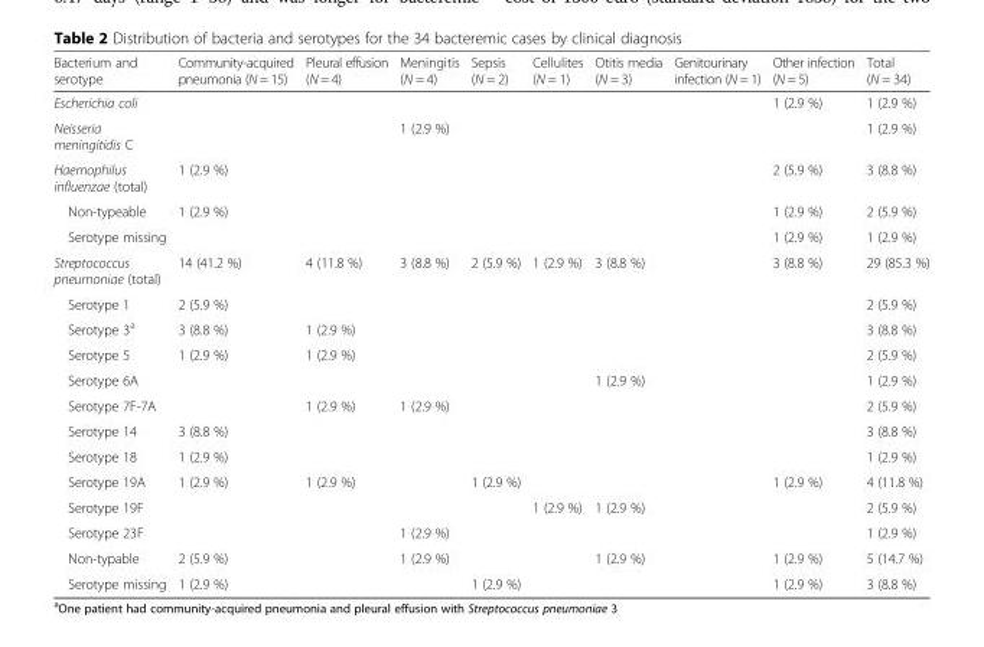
<table><thead><tr><td>Bacterium and serotype</td><td>Community-acquired pneumonia (N = 15)</td><td>Pleural effusion (N = 4)</td><td>Meningitis (N = 4)</td><td>Sepsis (N = 2)</td><td>Cellulites (N = 1)</td><td>Otitis media (N = 3)</td><td>Genitourinary infection (N = 1)</td><td>Other infection (N = 5)</td><td>Total (N = 34)</td></tr></thead><tbody><tr><td>Escherichia coli</td><td></td><td></td><td></td><td></td><td></td><td></td><td></td><td>1 (2.9 %)</td><td>1 (2.9 %)</td></tr><tr><td>Neisseria meningitidis C</td><td></td><td></td><td>1 (2.9 %)</td><td></td><td></td><td></td><td></td><td></td><td>1 (2.9 %)</td></tr><tr><td>Haemophilus influenzae (total)</td><td>1 (2.9 %)</td><td></td><td></td><td></td><td></td><td></td><td></td><td>2 (5.9 %)</td><td>3 (8.8 %)</td></tr><tr><td>Non-typeable</td><td>1 (2.9 %)</td><td></td><td></td><td></td><td></td><td></td><td></td><td>1 (2.9 %)</td><td>2 (5.9 %)</td></tr><tr><td>Serotype missing</td><td></td><td></td><td></td><td></td><td></td><td></td><td></td><td>1 (2.9 %)</td><td>1 (2.9 %)</td></tr><tr><td>Streptococcus pneumoniae (total)</td><td>14 (41.2 %)</td><td>4 (11.8 %)</td><td>3 (8.8 %)</td><td>2 (5.9 %)</td><td>1 (2.9 %)</td><td>3 (8.8 %)</td><td></td><td>3 (8.8 %)</td><td>29 (85.3 %)</td></tr><tr><td>Serotype 1</td><td>2 (5.9 %)</td><td></td><td></td><td></td><td></td><td></td><td></td><td></td><td>2 (5.9 %)</td></tr><tr><td>Serotype 3<sup>a</sup></td><td>3 (8.8 %)</td><td>1 (2.9 %)</td><td></td><td></td><td></td><td></td><td></td><td></td><td>3 (8.8 %)</td></tr><tr><td>Serotype 5</td><td>1 (2.9 %)</td><td>1 (2.9 %)</td><td></td><td></td><td></td><td></td><td></td><td></td><td>2 (5.9 %)</td></tr><tr><td>Serotype 6A</td><td></td><td></td><td></td><td></td><td></td><td>1 (2.9 %)</td><td></td><td></td><td>1 (2.9 %)</td></tr><tr><td>Serotype 7F-7A</td><td></td><td>1 (2.9 %)</td><td>1 (2.9 %)</td><td></td><td></td><td></td><td></td><td></td><td>2 (5.9 %)</td></tr><tr><td>Serotype 14</td><td>3 (8.8 %)</td><td></td><td></td><td></td><td></td><td></td><td></td><td></td><td>3 (8.8 %)</td></tr><tr><td>Serotype 18</td><td>1 (2.9 %)</td><td></td><td></td><td></td><td></td><td></td><td></td><td></td><td>1 (2.9 %)</td></tr><tr><td>Serotype 19A</td><td>1 (2.9 %)</td><td>1 (2.9 %)</td><td></td><td>1 (2.9 %)</td><td></td><td></td><td></td><td>1 (2.9 %)</td><td>4 (11.8 %)</td></tr><tr><td>Serotype 19F</td><td></td><td></td><td></td><td></td><td>1 (2.9 %)</td><td>1 (2.9 %)</td><td></td><td></td><td>2 (5.9 %)</td></tr><tr><td>Serotype 23F</td><td></td><td></td><td>1 (2.9 %)</td><td></td><td></td><td></td><td></td><td></td><td>1 (2.9 %)</td></tr><tr><td>Non-typable</td><td>2 (5.9 %)</td><td></td><td>1 (2.9 %)</td><td></td><td></td><td>1 (2.9 %)</td><td></td><td>1 (2.9 %)</td><td>5 (14.7 %)</td></tr><tr><td>Serotype missing</td><td>1 (2.9 %)</td><td></td><td></td><td>1 (2.9 %)</td><td></td><td></td><td></td><td>1 (2.9 %)</td><td>3 (8.8 %)</td></tr></tbody></table>